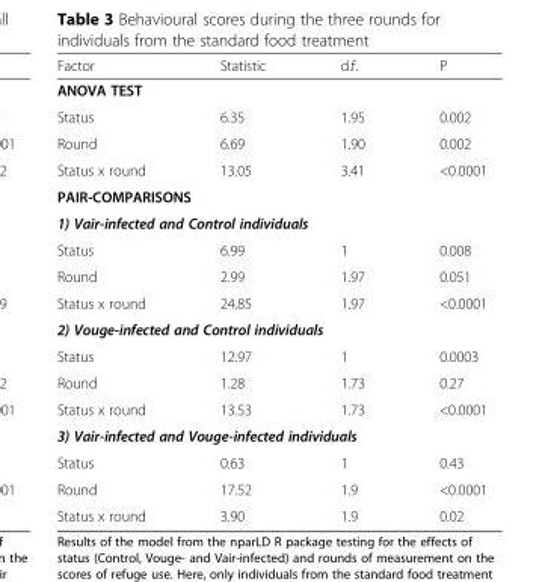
<table><thead><tr><td>Factor</td><td>Statistic</td><td>d.f.</td><td>P</td></tr></thead><tbody><tr><td colspan="4">ANOVA TEST</td></tr><tr><td>Status</td><td>6.35</td><td>1.95</td><td>0.002</td></tr><tr><td>Round</td><td>6.69</td><td>1.90</td><td>0.002</td></tr><tr><td>Status x round</td><td>13.05</td><td>3.41</td><td>&lt;0.0001</td></tr><tr><td colspan="4">PAIR-COMPARISONS</td></tr><tr><td colspan="4">1) Vair-infected and Control individuals</td></tr><tr><td>Status</td><td>6.99</td><td>1</td><td>0.008</td></tr><tr><td>Round</td><td>2.99</td><td>1.97</td><td>0.051</td></tr><tr><td>Status x round</td><td>24.85</td><td>1.97</td><td>&lt;0.0001</td></tr><tr><td colspan="4">2) Vouge-infected and Control individuals</td></tr><tr><td>Status</td><td>12.97</td><td>1</td><td>0.0003</td></tr><tr><td>Round</td><td>1.28</td><td>1.73</td><td>0.27</td></tr><tr><td>Status x round</td><td>13.53</td><td>1.73</td><td>&lt;0.0001</td></tr><tr><td colspan="4">3) Vair-infected and Vouge-infected individuals</td></tr><tr><td>Status</td><td>0.63</td><td>1</td><td>0.43</td></tr><tr><td>Round</td><td>17.52</td><td>1.9</td><td>&lt;0.0001</td></tr><tr><td>Status x round</td><td>3.90</td><td>1.9</td><td>0.02</td></tr></tbody></table>